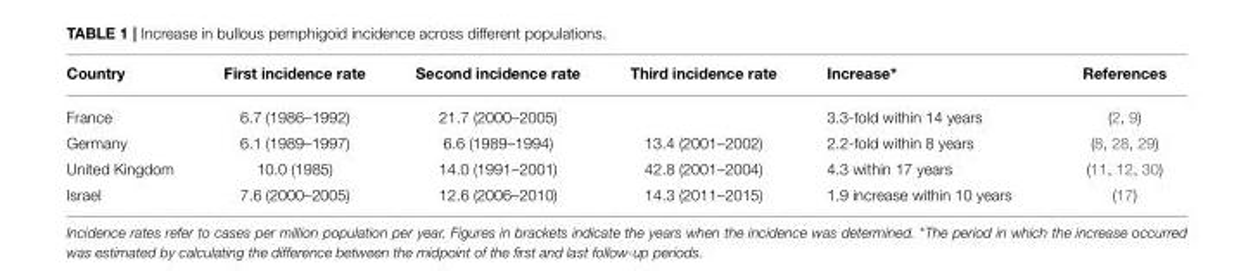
<table><thead><tr><td>Country</td><td>First incidence rate</td><td>Second incidence rate</td><td>Third incidence rate</td><td>Increase*</td><td>References</td></tr></thead><tbody><tr><td>France</td><td>6.7 (1986–1992)</td><td>21.7 (2000–2005)</td><td></td><td>3.3-fold within 14 years</td><td>(2, 9)</td></tr><tr><td>Germany</td><td>6.1 (1989–1997)</td><td>6.6 (1989–1994)</td><td>13.4 (2001–2002)</td><td>2.2-fold within 8 years</td><td>(8, 28, 29)</td></tr><tr><td>United Kingdom</td><td>10.0 (1985)</td><td>14.0 (1991–2001)</td><td>42.8 (2001–2004)</td><td>4.3 within 17 years</td><td>(11, 12, 30)</td></tr><tr><td>Israel</td><td>7.6 (2000–2005)</td><td>12.6 (2006–2010)</td><td>14.3 (2011–2015)</td><td>1.9 increase within 10 years</td><td>(17)</td></tr></tbody></table>